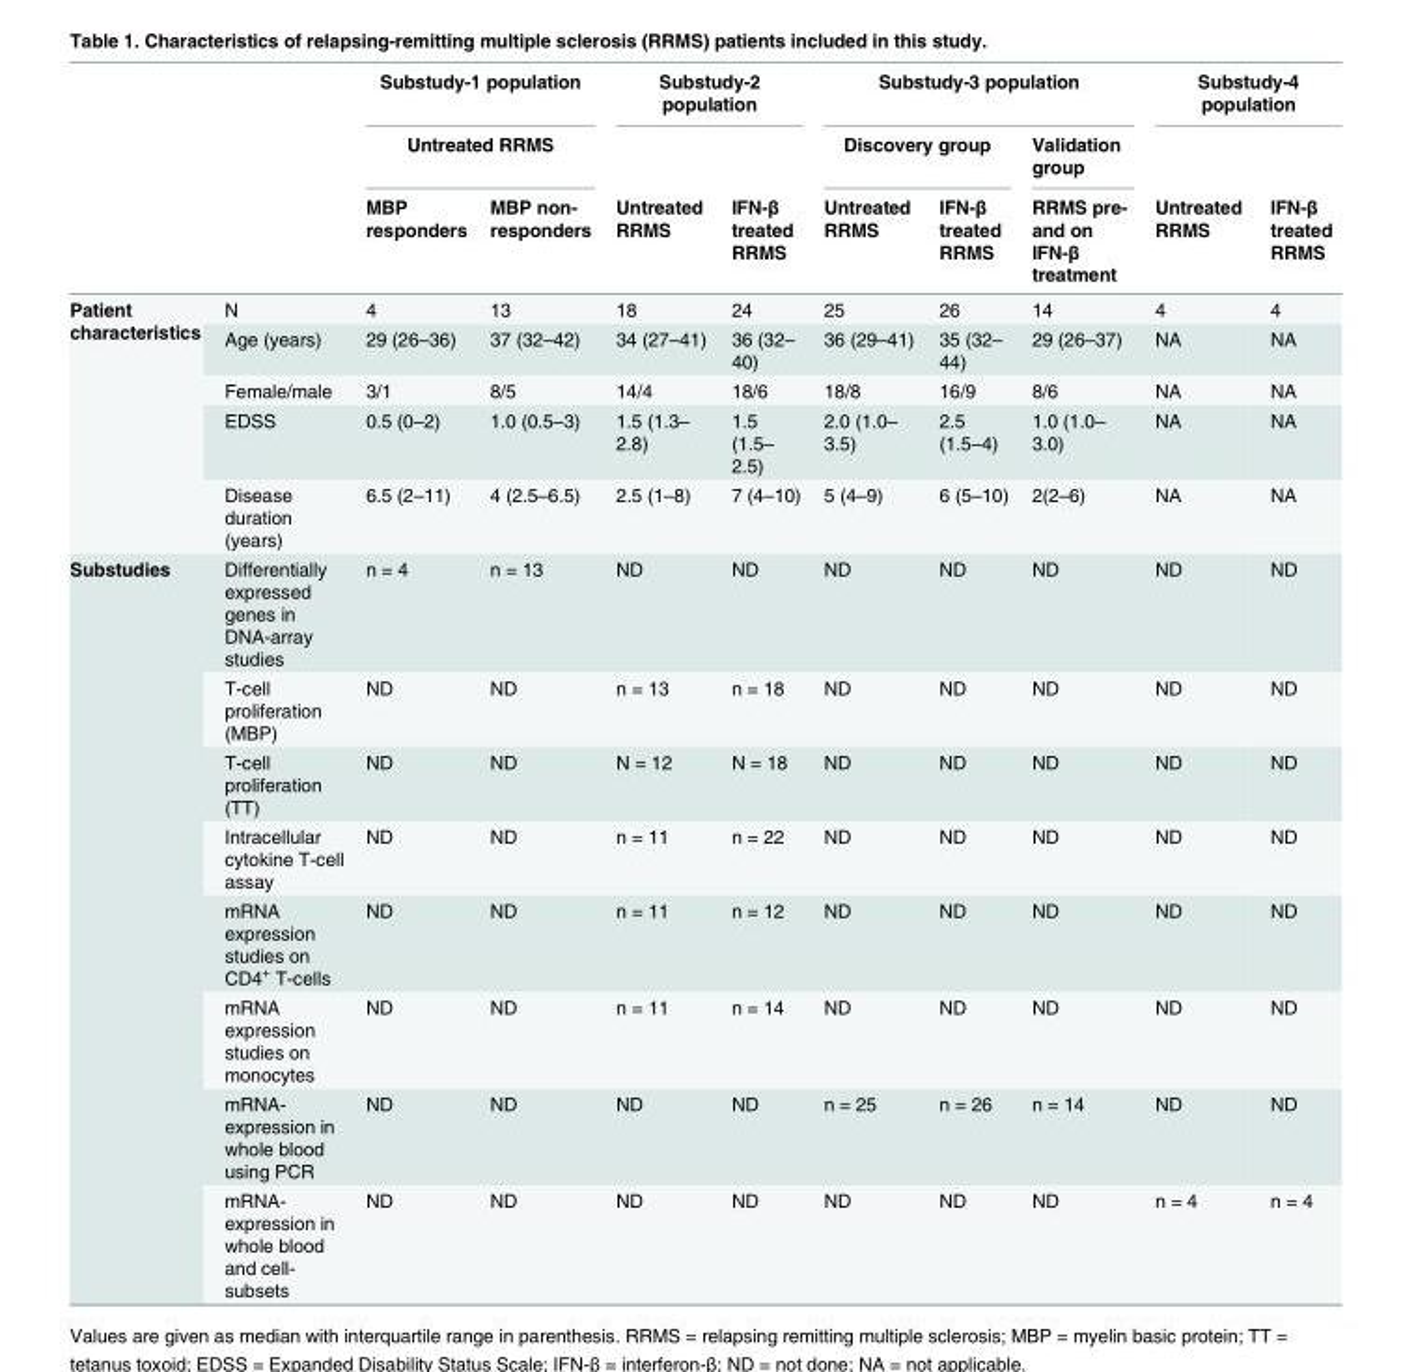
<table><thead><tr><td rowspan="3"></td><td rowspan="3"></td><td rowspan="2" colspan="2">Substudy-1 population Untreated RRMS</td><td colspan="2">Substudy-2 population</td><td colspan="3">Substudy-3 population</td><td colspan="2">Substudy-4 population</td></tr><tr><td rowspan="2">Untreated RRMS</td><td rowspan="2">IFN-β treated RRMS</td><td colspan="2">Discovery group</td><td rowspan="2">Validation group RRMS pre- and on IFN-β treatment</td><td rowspan="2">Untreated RRMS</td><td rowspan="2">IFN-β treated RRMS</td></tr><tr><td>MBP responders</td><td>MBP non- responders</td><td>Untreated RRMS</td><td>IFN-β treated RRMS</td></tr></thead><tbody><tr><td rowspan="5">Patient characteristics</td><td>N</td><td>4</td><td>13</td><td>18</td><td>24</td><td>25</td><td>26</td><td>14</td><td>4</td><td>4</td></tr><tr><td>Age (years)</td><td>29 (26–36)</td><td>37 (32–42)</td><td>34 (27–41)</td><td>36 (32– 40)</td><td>36 (29–41)</td><td>35 (32– 44)</td><td>29 (26–37)</td><td>NA</td><td>NA</td></tr><tr><td>Female/male</td><td>3/1</td><td>8/5</td><td>14/4</td><td>18/6</td><td>18/8</td><td>16/9</td><td>8/6</td><td>NA</td><td>NA</td></tr><tr><td>EDSS</td><td>0.5 (0–2)</td><td>1.0 (0.5–3)</td><td>1.5 (1.3– 2.8)</td><td>1.5 (1.5– 2.5)</td><td>2.0 (1.0– 3.5)</td><td>2.5 (1.5–4)</td><td>1.0 (1.0– 3.0)</td><td>NA</td><td>NA</td></tr><tr><td>Disease duration (years)</td><td>6.5 (2–11)</td><td>4 (2.5–6.5)</td><td>2.5 (1–8)</td><td>7 (4–10)</td><td>5 (4–9)</td><td>6 (5–10)</td><td>2(2–6)</td><td>NA</td><td>NA</td></tr><tr><td rowspan="8">Substudies</td><td>Differentially expressed genes in DNA-array studies</td><td>n = 4</td><td>n = 13</td><td>ND</td><td>ND</td><td>ND</td><td>ND</td><td>ND</td><td>ND</td><td>ND</td></tr><tr><td>T-cell proliferation (MBP)</td><td>ND</td><td>ND</td><td>n = 13</td><td>n = 18</td><td>ND</td><td>ND</td><td>ND</td><td>ND</td><td>ND</td></tr><tr><td>T-cell proliferation (TT)</td><td>ND</td><td>ND</td><td>N = 12</td><td>N = 18</td><td>ND</td><td>ND</td><td>ND</td><td>ND</td><td>ND</td></tr><tr><td>Intracellular cytokine T-cell assay</td><td>ND</td><td>ND</td><td>n = 11</td><td>n = 22</td><td>ND</td><td>ND</td><td>ND</td><td>ND</td><td>ND</td></tr><tr><td>mRNA expression studies on CD4<sup>+</sup> T-cells</td><td>ND</td><td>ND</td><td>n = 11</td><td>n = 12</td><td>ND</td><td>ND</td><td>ND</td><td>ND</td><td>ND</td></tr><tr><td>mRNA expression studies on monocytes</td><td>ND</td><td>ND</td><td>n = 11</td><td>n = 14</td><td>ND</td><td>ND</td><td>ND</td><td>ND</td><td>ND</td></tr><tr><td>mRNA- expression in whole blood using PCR</td><td>ND</td><td>ND</td><td>ND</td><td>ND</td><td>n = 25</td><td>n = 26</td><td>n = 14</td><td>ND</td><td>ND</td></tr><tr><td>mRNA- expression in whole blood and cell- subsets</td><td>ND</td><td>ND</td><td>ND</td><td>ND</td><td>ND</td><td>ND</td><td>ND</td><td>n = 4</td><td>n = 4</td></tr></tbody></table>